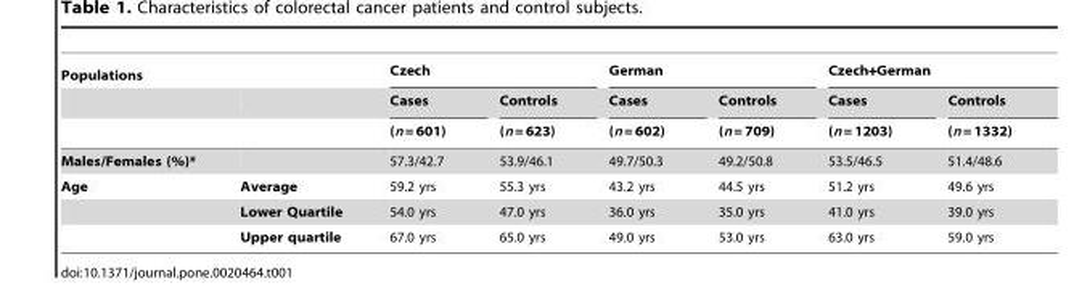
<table><thead><tr><td rowspan="3">Populations</td><td rowspan="3"></td><td colspan="2">Czech</td><td colspan="2">German</td><td colspan="2">Czech+German</td></tr><tr><td rowspan="2">Cases (n = 601)</td><td rowspan="2">Controls (n = 623)</td><td rowspan="2">Cases (n = 602)</td><td rowspan="2">Controls (n = 709)</td><td rowspan="2">Cases (n = 1203)</td><td rowspan="2">Controls (n = 1332)</td></tr><tr></tr></thead><tbody><tr><td>Males/Females (%)*</td><td></td><td>57.3/42.7</td><td>53.9/46.1</td><td>49.7/50.3</td><td>49.2/50.8</td><td>53.5/46.5</td><td>51.4/48.6</td></tr><tr><td rowspan="3">Age</td><td>Average</td><td>59.2 yrs</td><td>55.3 yrs</td><td>43.2 yrs</td><td>44.5 yrs</td><td>51.2 yrs</td><td>49.6 yrs</td></tr><tr><td>Lower Quartile</td><td>54.0 yrs</td><td>47.0 yrs</td><td>36.0 yrs</td><td>35.0 yrs</td><td>41.0 yrs</td><td>39.0 yrs</td></tr><tr><td>Upper quartile</td><td>67.0 yrs</td><td>65.0 yrs</td><td>49.0 yrs</td><td>53.0 yrs</td><td>63.0 yrs</td><td>59.0 yrs</td></tr></tbody></table>